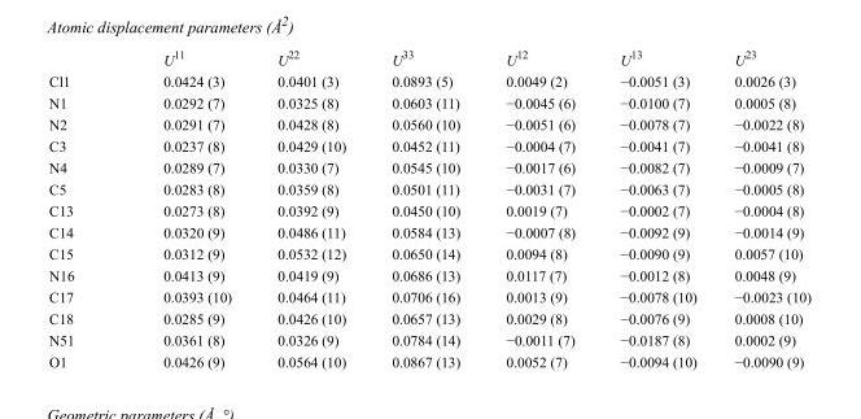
<table><thead><tr><td></td><td>U<sup>11</sup></td><td>U<sup>22</sup></td><td>U<sup>33</sup></td><td>U<sup>12</sup></td><td>U<sup>13</sup></td><td>U<sup>23</sup></td></tr></thead><tbody><tr><td>Cl1</td><td>0.0424 (3)</td><td>0.0401 (3)</td><td>0.0893 (5)</td><td>0.0049 (2)</td><td>−0.0051 (3)</td><td>0.0026 (3)</td></tr><tr><td>N1</td><td>0.0292 (7)</td><td>0.0325 (8)</td><td>0.0603 (11)</td><td>−0.0045 (6)</td><td>−0.0100 (7)</td><td>0.0005 (8)</td></tr><tr><td>N2</td><td>0.0291 (7)</td><td>0.0428 (8)</td><td>0.0560 (10)</td><td>−0.0051 (6)</td><td>−0.0078 (7)</td><td>−0.0022 (8)</td></tr><tr><td>C3</td><td>0.0237 (8)</td><td>0.0429 (10)</td><td>0.0452 (11)</td><td>−0.0004 (7)</td><td>−0.0041 (7)</td><td>−0.0041 (8)</td></tr><tr><td>N4</td><td>0.0289 (7)</td><td>0.0330 (7)</td><td>0.0545 (10)</td><td>−0.0017 (6)</td><td>−0.0082 (7)</td><td>−0.0009 (7)</td></tr><tr><td>C5</td><td>0.0283 (8)</td><td>0.0359 (8)</td><td>0.0501 (11)</td><td>−0.0031 (7)</td><td>−0.0063 (7)</td><td>−0.0005 (8)</td></tr><tr><td>C13</td><td>0.0273 (8)</td><td>0.0392 (9)</td><td>0.0450 (10)</td><td>0.0019 (7)</td><td>−0.0002 (7)</td><td>−0.0004 (8)</td></tr><tr><td>C14</td><td>0.0320 (9)</td><td>0.0486 (11)</td><td>0.0584 (13)</td><td>−0.0007 (8)</td><td>−0.0092 (9)</td><td>−0.0014 (9)</td></tr><tr><td>C15</td><td>0.0312 (9)</td><td>0.0532 (12)</td><td>0.0650 (14)</td><td>0.0094 (8)</td><td>−0.0090 (9)</td><td>0.0057 (10)</td></tr><tr><td>N16</td><td>0.0413 (9)</td><td>0.0419 (9)</td><td>0.0686 (13)</td><td>0.0117 (7)</td><td>−0.0012 (8)</td><td>0.0048 (9)</td></tr><tr><td>C17</td><td>0.0393 (10)</td><td>0.0464 (11)</td><td>0.0706 (16)</td><td>0.0013 (9)</td><td>−0.0078 (10)</td><td>−0.0023 (10)</td></tr><tr><td>C18</td><td>0.0285 (9)</td><td>0.0426 (10)</td><td>0.0657 (13)</td><td>0.0029 (8)</td><td>−0.0076 (9)</td><td>0.0008 (10)</td></tr><tr><td>N51</td><td>0.0361 (8)</td><td>0.0326 (9)</td><td>0.0784 (14)</td><td>−0.0011 (7)</td><td>−0.0187 (8)</td><td>0.0002 (9)</td></tr><tr><td>O1</td><td>0.0426 (9)</td><td>0.0564 (10)</td><td>0.0867 (13)</td><td>0.0052 (7)</td><td>−0.0094 (10)</td><td>−0.0090 (9)</td></tr></tbody></table>